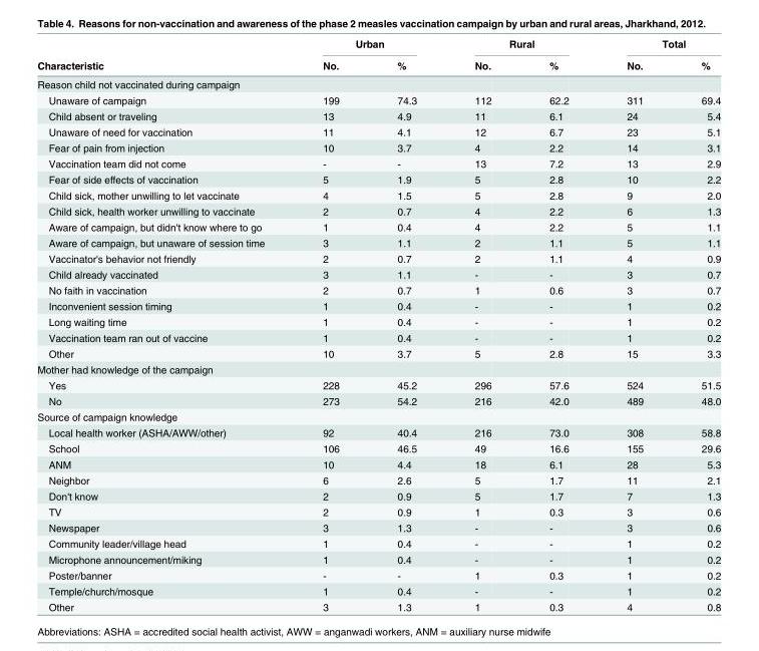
<table><thead><tr><td rowspan="2">Characteristic</td><td colspan="2">Urban</td><td colspan="2">Rural</td><td colspan="2">Total</td></tr><tr><td>No.</td><td>%</td><td>No.</td><td>%</td><td>No.</td><td>%</td></tr></thead><tbody><tr><td colspan="7">Reason child not vaccinated during campaign</td></tr><tr><td>Unaware of campaign</td><td>199</td><td>74.3</td><td>112</td><td>62.2</td><td>311</td><td>69.4</td></tr><tr><td>Child absent or traveling</td><td>13</td><td>4.9</td><td>11</td><td>6.1</td><td>24</td><td>5.4</td></tr><tr><td>Unaware of need for vaccination</td><td>11</td><td>4.1</td><td>12</td><td>6.7</td><td>23</td><td>5.1</td></tr><tr><td>Fear of pain from injection</td><td>10</td><td>3.7</td><td>4</td><td>2.2</td><td>14</td><td>3.1</td></tr><tr><td>Vaccination team did not come</td><td>-</td><td>-</td><td>13</td><td>7.2</td><td>13</td><td>2.9</td></tr><tr><td>Fear of side effects of vaccination</td><td>5</td><td>1.9</td><td>5</td><td>2.8</td><td>10</td><td>2.2</td></tr><tr><td>Child sick, mother unwilling to let vaccinate</td><td>4</td><td>1.5</td><td>5</td><td>2.8</td><td>9</td><td>2.0</td></tr><tr><td>Child sick, health worker unwilling to vaccinate</td><td>2</td><td>0.7</td><td>4</td><td>2.2</td><td>6</td><td>1.3</td></tr><tr><td>Aware of campaign, but didn&#x27;t know where to go</td><td>1</td><td>0.4</td><td>4</td><td>2.2</td><td>5</td><td>1.1</td></tr><tr><td>Aware of campaign, but unaware of session time</td><td>3</td><td>1.1</td><td>2</td><td>1.1</td><td>5</td><td>1.1</td></tr><tr><td>Vaccinator&#x27;s behavior not friendly</td><td>2</td><td>0.7</td><td>2</td><td>1.1</td><td>4</td><td>0.9</td></tr><tr><td>Child already vaccinated</td><td>3</td><td>1.1</td><td>-</td><td>-</td><td>3</td><td>0.7</td></tr><tr><td>No faith in vaccination</td><td>2</td><td>0.7</td><td>1</td><td>0.6</td><td>3</td><td>0.7</td></tr><tr><td>Inconvenient session timing</td><td>1</td><td>0.4</td><td>-</td><td>-</td><td>1</td><td>0.2</td></tr><tr><td>Long waiting time</td><td>1</td><td>0.4</td><td>-</td><td>-</td><td>1</td><td>0.2</td></tr><tr><td>Vaccination team ran out of vaccine</td><td>1</td><td>0.4</td><td>-</td><td>-</td><td>1</td><td>0.2</td></tr><tr><td>Other</td><td>10</td><td>3.7</td><td>5</td><td>2.8</td><td>15</td><td>3.3</td></tr><tr><td colspan="7">Mother had knowledge of the campaign</td></tr><tr><td>Yes</td><td>228</td><td>45.2</td><td>296</td><td>57.6</td><td>524</td><td>51.5</td></tr><tr><td>No</td><td>273</td><td>54.2</td><td>216</td><td>42.0</td><td>489</td><td>48.0</td></tr><tr><td colspan="7">Source of campaign knowledge</td></tr><tr><td>Local health worker (ASHA/AWW/other)</td><td>92</td><td>40.4</td><td>216</td><td>73.0</td><td>308</td><td>58.8</td></tr><tr><td>School</td><td>106</td><td>46.5</td><td>49</td><td>16.6</td><td>155</td><td>29.6</td></tr><tr><td>ANM</td><td>10</td><td>4.4</td><td>18</td><td>6.1</td><td>28</td><td>5.3</td></tr><tr><td>Neighbor</td><td>6</td><td>2.6</td><td>5</td><td>1.7</td><td>11</td><td>2.1</td></tr><tr><td>Don&#x27;t know</td><td>2</td><td>0.9</td><td>5</td><td>1.7</td><td>7</td><td>1.3</td></tr><tr><td>TV</td><td>2</td><td>0.9</td><td>1</td><td>0.3</td><td>3</td><td>0.6</td></tr><tr><td>Newspaper</td><td>3</td><td>1.3</td><td>-</td><td>-</td><td>3</td><td>0.6</td></tr><tr><td>Community leader/village head</td><td>1</td><td>0.4</td><td>-</td><td>-</td><td>1</td><td>0.2</td></tr><tr><td>Microphone announcement/miking</td><td>1</td><td>0.4</td><td>-</td><td>-</td><td>1</td><td>0.2</td></tr><tr><td>Poster/banner</td><td>-</td><td>-</td><td>1</td><td>0.3</td><td>1</td><td>0.2</td></tr><tr><td>Temple/church/mosque</td><td>1</td><td>0.4</td><td>-</td><td>-</td><td>1</td><td>0.2</td></tr><tr><td>Other</td><td>3</td><td>1.3</td><td>1</td><td>0.3</td><td>4</td><td>0.8</td></tr></tbody></table>